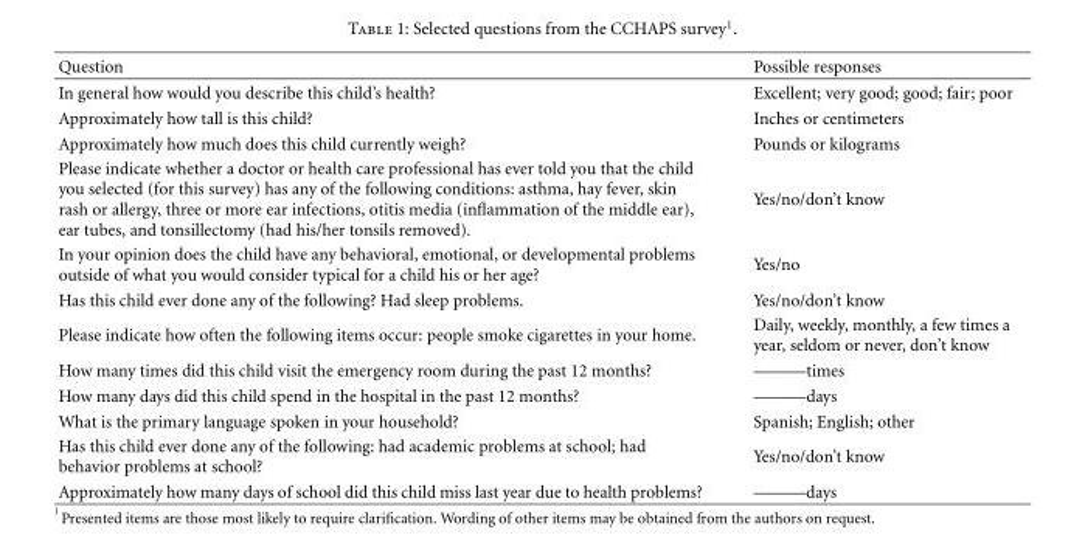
<table><thead><tr><td>Question</td><td>Possible responses</td></tr></thead><tbody><tr><td>In general how would you describe this child’s health?</td><td>Excellent; very good; good; fair; poor</td></tr><tr><td>Approximately how tall is this child?</td><td>Inches or centimeters</td></tr><tr><td>Approximately how much does this child currently weigh?</td><td>Pounds or kilograms</td></tr><tr><td>Please indicate whether a doctor or health care professional has ever told you that the child you selected (for this survey) has any of the following conditions: asthma, hay fever, skin rash or allergy, three or more ear infections, otitis media (inflammation of the middle ear), ear tubes, and tonsillectomy (had his/her tonsils removed).</td><td>Yes/no/don’t know</td></tr><tr><td>In your opinion does the child have any behavioral, emotional, or developmental problems outside of what you would consider typical for a child his or her age?</td><td>Yes/no</td></tr><tr><td>Has this child ever done any of the following? Had sleep problems.</td><td>Yes/no/don’t know</td></tr><tr><td>Please indicate how often the following items occur: people smoke cigarettes in your home.</td><td>Daily, weekly, monthly, a few times a year, seldom or never, don’t know</td></tr><tr><td>How many times did this child visit the emergency room during the past 12 months?</td><td>———times</td></tr><tr><td>How many days did this child spend in the hospital in the past 12 months?</td><td>———days</td></tr><tr><td>What is the primary language spoken in your household?</td><td>Spanish; English; other</td></tr><tr><td>Has this child ever done any of the following: had academic problems at school; had behavior problems at school?</td><td>Yes/no/don’t know</td></tr><tr><td>Approximately how many days of school did this child miss last year due to health problems?</td><td>———days</td></tr></tbody></table>